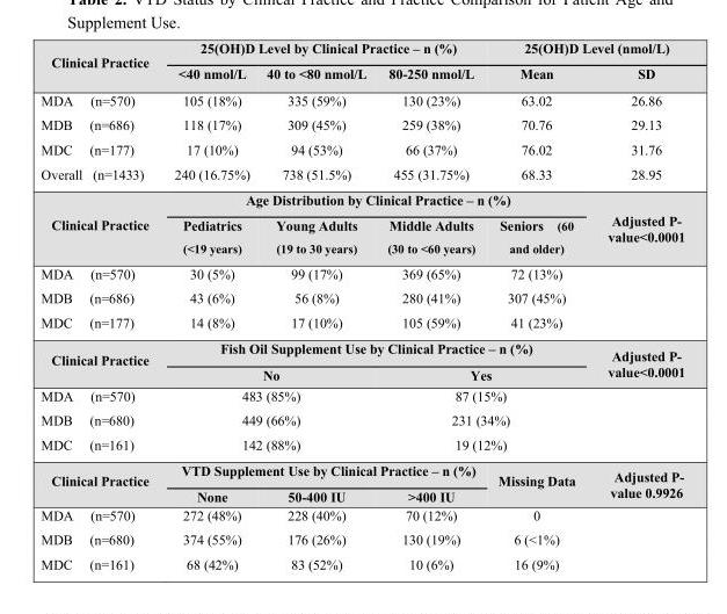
<table><thead><tr><td rowspan="2" colspan="2">Clinical Practice</td><td colspan="3">25(OH)D Level by Clinical Practice – n (%)</td><td colspan="2">25(OH)D Level (nmol/L)</td></tr><tr><td rowspan="2">&lt;40 nmol/L 105 (18%)</td><td rowspan="2">40 to &lt;80 nmol/L 335 (59%)</td><td rowspan="2">80-250 nmol/L 130 (23%)</td><td rowspan="2">Mean 63.02</td><td rowspan="2">SD 26.86</td></tr><tr><td>MDA</td><td>(n=570)</td></tr></thead><tbody><tr><td>MDB</td><td>(n=686)</td><td>118 (17%)</td><td>309 (45%)</td><td>259 (38%)</td><td>70.76</td><td>29.13</td></tr><tr><td>MDC</td><td>(n=177)</td><td>17 (10%)</td><td>94 (53%)</td><td>66 (37%)</td><td>76.02</td><td>31.76</td></tr><tr><td>Overall</td><td>(n=1433)</td><td>240 (16.75%)</td><td>738 (51.5%)</td><td>455 (31.75%)</td><td>68.33</td><td>28.95</td></tr><tr><td rowspan="2" colspan="2">Clinical Practice</td><td colspan="4">Age Distribution by Clinical Practice – n (%)</td><td rowspan="2">Adjusted P- value&lt;0.0001</td></tr><tr><td>Pediatrics (&lt;19 years)</td><td>Young Adults (19 to 30 years)</td><td>Middle Adults (30 to &lt;60 years)</td><td>Seniors (60 and older)</td></tr><tr><td>MDA</td><td>(n=570)</td><td>30 (5%)</td><td>99 (17%)</td><td>369 (65%)</td><td>72 (13%)</td><td></td></tr><tr><td>MDB</td><td>(n=686)</td><td>43 (6%)</td><td>56 (8%)</td><td>280 (41%)</td><td>307 (45%)</td><td></td></tr><tr><td>MDC</td><td>(n=177)</td><td>14 (8%)</td><td>17 (10%)</td><td>105 (59%)</td><td>41 (23%)</td><td></td></tr><tr><td rowspan="2" colspan="2">Clinical Practice</td><td colspan="4">Fish Oil Supplement Use by Clinical Practice – n (%)</td><td rowspan="2">Adjusted P- value&lt;0.0001</td></tr><tr><td colspan="2">No</td><td colspan="2">Yes</td></tr><tr><td>MDA</td><td>(n=570)</td><td colspan="2">483 (85%)</td><td colspan="2">87 (15%)</td><td></td></tr><tr><td>MDB</td><td>(n=680)</td><td colspan="2">449 (66%)</td><td colspan="2">231 (34%)</td><td></td></tr><tr><td>MDC</td><td>(n=161)</td><td colspan="2">142 (88%)</td><td colspan="2">19 (12%)</td><td></td></tr><tr><td rowspan="2" colspan="2">Clinical Practice</td><td colspan="3">VTD Supplement Use by Clinical Practice – n (%)</td><td rowspan="2">Missing Data</td><td rowspan="2">Adjusted P- value 0.9926</td></tr><tr><td>None</td><td>50-400 IU</td><td>&gt;400 IU</td></tr><tr><td>MDA</td><td>(n=570)</td><td>272 (48%)</td><td>228 (40%)</td><td>70 (12%)</td><td>0</td><td></td></tr><tr><td>MDB</td><td>(n=680)</td><td>374 (55%)</td><td>176 (26%)</td><td>130 (19%)</td><td>6 (&lt;1%)</td><td></td></tr><tr><td>MDC</td><td>(n=161)</td><td>68 (42%)</td><td>83 (52%)</td><td>10 (6%)</td><td>16 (9%)</td><td></td></tr></tbody></table>